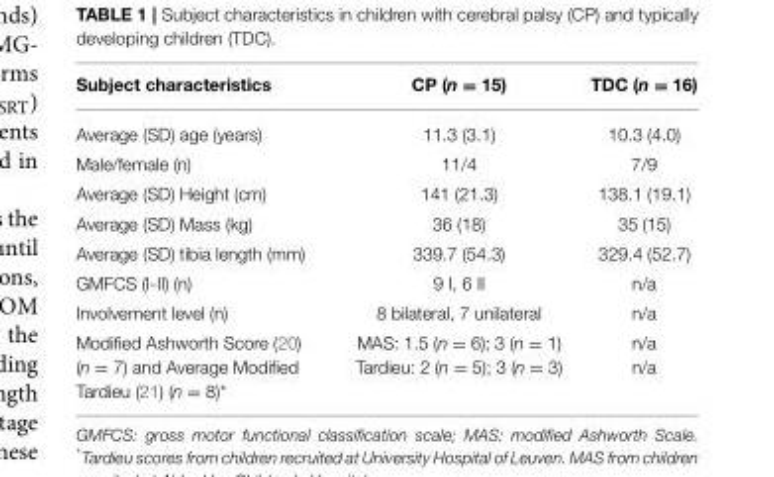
<table><thead><tr><td>Subject characteristics</td><td>CP (n = 15)</td><td>TDC (n = 16)</td></tr></thead><tbody><tr><td>Average (SD) age (years)</td><td>11.3 (3.1)</td><td>10.3 (4.0)</td></tr><tr><td>Male/female (n)</td><td>11/4</td><td>7/9</td></tr><tr><td>Average (SD) Height (cm)</td><td>141 (21.3)</td><td>138.1 (19.1)</td></tr><tr><td>Average (SD) Mass (kg)</td><td>36 (18)</td><td>35 (15)</td></tr><tr><td>Average (SD) tibia length (mm)</td><td>339.7 (54.3)</td><td>329.4 (52.7)</td></tr><tr><td>GMFCS (I-II) (n)</td><td>9 I, 6 II</td><td>n/a</td></tr><tr><td>Involvement level (n)</td><td>8 bilateral, 7 unilateral</td><td>n/a</td></tr><tr><td>Modified Ashworth Score (20) (n = 7) and Average Modified Tardieu (21) (n = 8)*</td><td>MAS: 1.5 (n = 6); 3 (n = 1) Tardieu: 2 (n = 5); 3 (n = 3)</td><td>n/a n/a</td></tr></tbody></table>